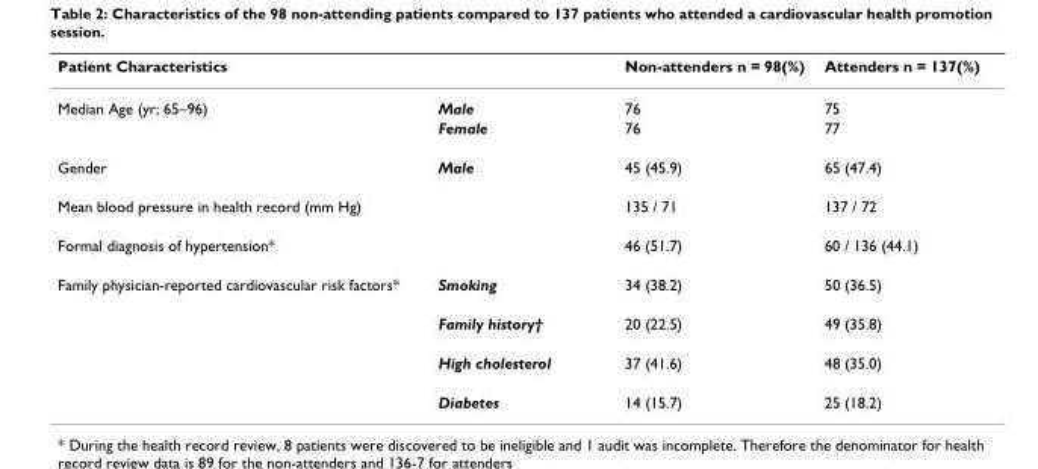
<table><thead><tr><td>Patient Characteristics</td><td></td><td>Non-attenders n = 98(%)</td><td>Attenders n = 137(%)</td></tr></thead><tbody><tr><td rowspan="2">Median Age (yr; 65–96)</td><td>Male</td><td>76</td><td>75</td></tr><tr><td>Female</td><td>76</td><td>77</td></tr><tr><td>Gender</td><td>Male</td><td>45 (45.9)</td><td>65 (47.4)</td></tr><tr><td>Mean blood pressure in health record (mm Hg)</td><td></td><td>135 / 71</td><td>137 / 72</td></tr><tr><td>Formal diagnosis of hypertension*</td><td></td><td>46 (51.7)</td><td>60 / 136 (44.1)</td></tr><tr><td rowspan="4">Family physician-reported cardiovascular risk factors*</td><td>Smoking</td><td>34 (38.2)</td><td>50 (36.5)</td></tr><tr><td>Family history†</td><td>20 (22.5)</td><td>49 (35.8)</td></tr><tr><td>High cholesterol</td><td>37 (41.6)</td><td>48 (35.0)</td></tr><tr><td>Diabetes</td><td>14 (15.7)</td><td>25 (18.2)</td></tr></tbody></table>